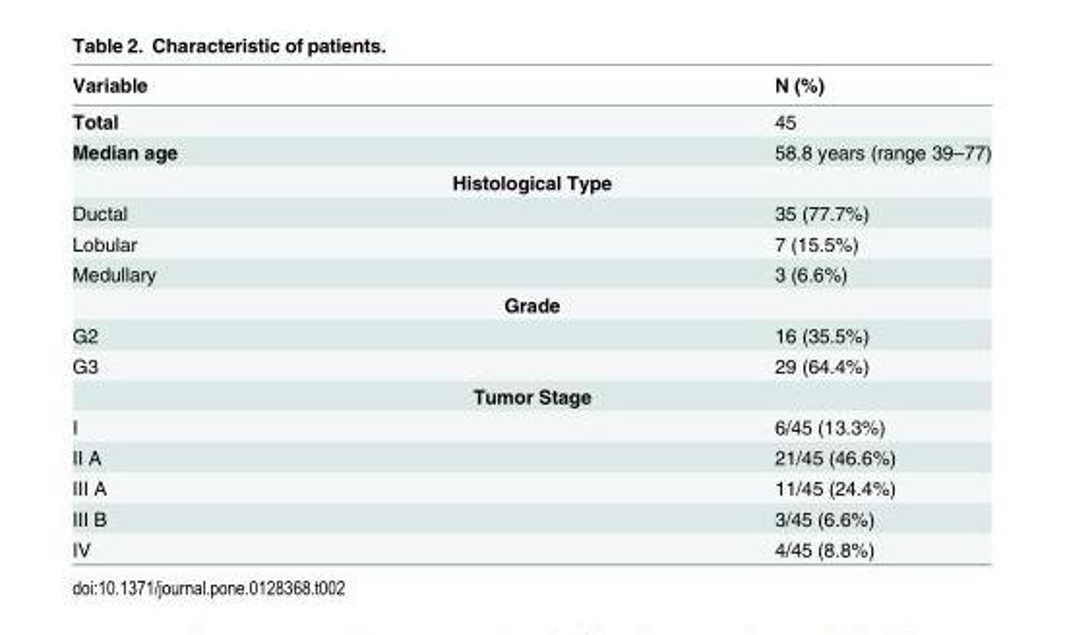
<table><thead><tr><td>Variable</td><td>N (%)</td></tr></thead><tbody><tr><td>Total</td><td>45</td></tr><tr><td>Median age</td><td>58.8 years (range 39–77)</td></tr><tr><td colspan="2">Histological Type</td></tr><tr><td>Ductal</td><td>35 (77.7%)</td></tr><tr><td>Lobular</td><td>7 (15.5%)</td></tr><tr><td>Medullary</td><td>3 (6.6%)</td></tr><tr><td colspan="2">Grade</td></tr><tr><td>G2</td><td>16 (35.5%)</td></tr><tr><td>G3</td><td>29 (64.4%)</td></tr><tr><td colspan="2">Tumor Stage</td></tr><tr><td>I</td><td>6/45 (13.3%)</td></tr><tr><td>II A</td><td>21/45 (46.6%)</td></tr><tr><td>III A</td><td>11/45 (24.4%)</td></tr><tr><td>III B</td><td>3/45 (6.6%)</td></tr><tr><td>IV</td><td>4/45 (8.8%)</td></tr></tbody></table>